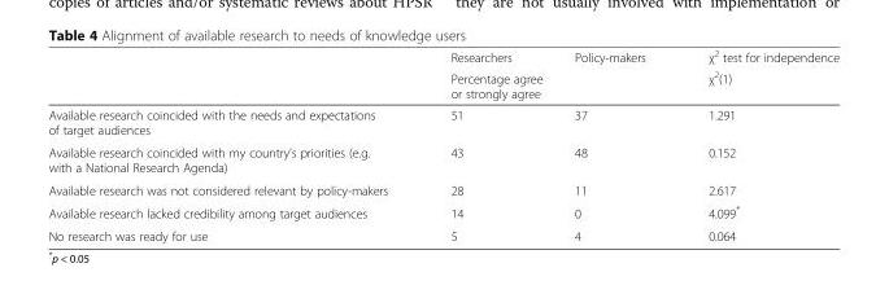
<table><thead><tr><td rowspan="2"></td><td>Researchers</td><td>Policy-makers</td><td rowspan="2">χ<sup>2</sup> test for independence χ<sup>2</sup>(1)</td></tr><tr><td colspan="2">Percentage agree or strongly agree</td></tr></thead><tbody><tr><td>Available research coincided with the needs and expectations of target audiences</td><td>51</td><td>37</td><td>1.291</td></tr><tr><td>Available research coincided with my country’s priorities (e.g. with a National Research Agenda)</td><td>43</td><td>48</td><td>0.152</td></tr><tr><td>Available research was not considered relevant by policy-makers</td><td>28</td><td>11</td><td>2.617</td></tr><tr><td>Available research lacked credibility among target audiences</td><td>14</td><td>0</td><td>4.099*</td></tr><tr><td>No research was ready for use</td><td>5</td><td>4</td><td>0.064</td></tr></tbody></table>